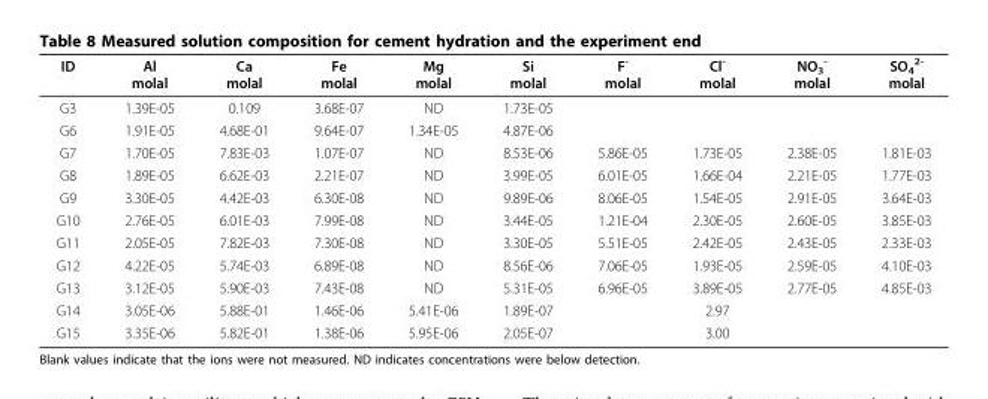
<table><thead><tr><td>ID</td><td>Al molal</td><td>Ca molal</td><td>Fe molal</td><td>Mg molal</td><td>Si molal</td><td>F<sup>-</sup> molal</td><td>Cl<sup>-</sup> molal</td><td>NO<sub>3</sub> <sup>-</sup> molal</td><td>SO<sub>4</sub> <sup>2-</sup> molal</td></tr></thead><tbody><tr><td>G3</td><td>1.39E-05</td><td>0.109</td><td>3.68E-07</td><td>ND</td><td>1.73E-05</td><td></td><td></td><td></td><td></td></tr><tr><td>G6</td><td>1.91E-05</td><td>4.68E-01</td><td>9.64E-07</td><td>1.34E-05</td><td>4.87E-06</td><td></td><td></td><td></td><td></td></tr><tr><td>G7</td><td>1.70E-05</td><td>7.83E-03</td><td>1.07E-07</td><td>ND</td><td>8.53E-06</td><td>5.86E-05</td><td>1.73E-05</td><td>2.38E-05</td><td>1.81E-03</td></tr><tr><td>G8</td><td>1.89E-05</td><td>6.62E-03</td><td>2.21E-07</td><td>ND</td><td>3.99E-05</td><td>6.01E-05</td><td>1.66E-04</td><td>2.21E-05</td><td>1.77E-03</td></tr><tr><td>G9</td><td>3.30E-05</td><td>4.42E-03</td><td>6.30E-08</td><td>ND</td><td>9.89E-06</td><td>8.06E-05</td><td>1.54E-05</td><td>2.91E-05</td><td>3.64E-03</td></tr><tr><td>G10</td><td>2.76E-05</td><td>6.01E-03</td><td>7.99E-08</td><td>ND</td><td>3.44E-05</td><td>1.21E-04</td><td>2.30E-05</td><td>2.60E-05</td><td>3.85E-03</td></tr><tr><td>G11</td><td>2.05E-05</td><td>7.82E-03</td><td>7.30E-08</td><td>ND</td><td>3.30E-05</td><td>5.51E-05</td><td>2.42E-05</td><td>2.43E-05</td><td>2.33E-03</td></tr><tr><td>G12</td><td>4.22E-05</td><td>5.74E-03</td><td>6.89E-08</td><td>ND</td><td>8.56E-06</td><td>7.06E-05</td><td>1.93E-05</td><td>2.59E-05</td><td>4.10E-03</td></tr><tr><td>G13</td><td>3.12E-05</td><td>5.90E-03</td><td>7.43E-08</td><td>ND</td><td>5.31E-05</td><td>6.96E-05</td><td>3.89E-05</td><td>2.77E-05</td><td>4.85E-03</td></tr><tr><td>G14</td><td>3.05E-06</td><td>5.88E-01</td><td>1.46E-06</td><td>5.41E-06</td><td>1.89E-07</td><td></td><td>2.97</td><td></td><td></td></tr><tr><td>G15</td><td>3.35E-06</td><td>5.82E-01</td><td>1.38E-06</td><td>5.95E-06</td><td>2.05E-07</td><td></td><td>3.00</td><td></td><td></td></tr></tbody></table>